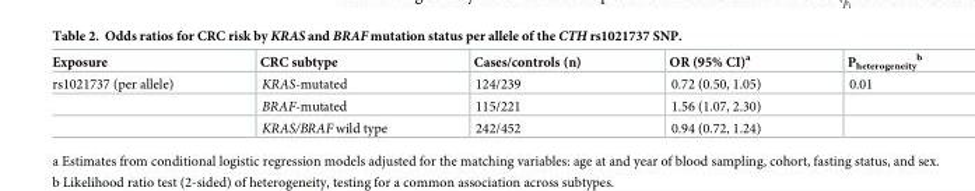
<table><thead><tr><td>Exposure</td><td>CRC subtype</td><td>Cases/controls (n)</td><td>OR (95% CI)<sup>a</sup></td><td>P<sub>heterogeneity</sub> <sup>b</sup></td></tr></thead><tbody><tr><td rowspan="3">rs1021737 (per allele)</td><td>KRAS-mutated</td><td>124/239</td><td>0.72 (0.50, 1.05)</td><td>0.01</td></tr><tr><td>BRAF-mutated</td><td>115/221</td><td>1.56 (1.07, 2.30)</td><td></td></tr><tr><td>KRAS/BRAF wild type</td><td>242/452</td><td>0.94 (0.72, 1.24)</td><td></td></tr></tbody></table>